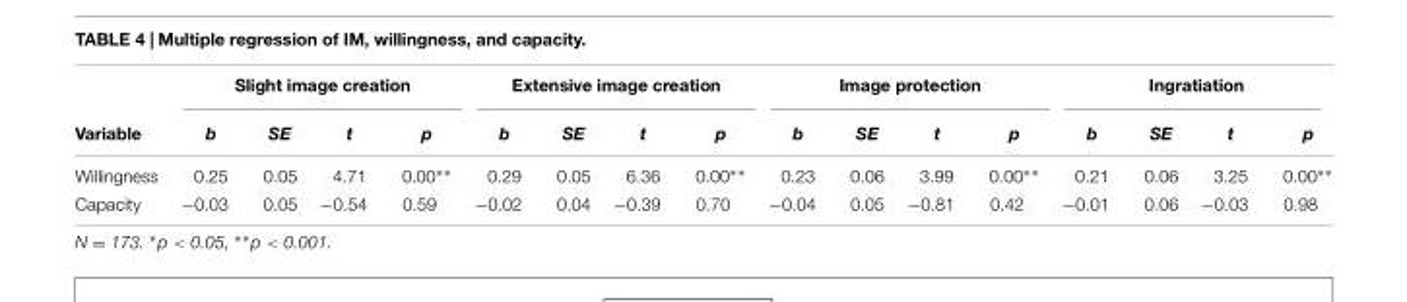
<table><thead><tr><td rowspan="2">Variable</td><td colspan="4">Slight image creation</td><td colspan="4">Extensive image creation</td><td colspan="4">Image protection</td><td colspan="4">Ingratiation</td></tr><tr><td>b</td><td>SE</td><td>t</td><td>p</td><td>b</td><td>SE</td><td>t</td><td>p</td><td>b</td><td>SE</td><td>t</td><td>p</td><td>b</td><td>SE</td><td>t</td><td>p</td></tr></thead><tbody><tr><td>Willingness</td><td>0.25</td><td>0.05</td><td>4.71</td><td>0.00∗∗</td><td>0.29</td><td>0.05</td><td>6.36</td><td>0.00∗∗</td><td>0.23</td><td>0.06</td><td>3.99</td><td>0.00∗∗</td><td>0.21</td><td>0.06</td><td>3.25</td><td>0.00∗∗</td></tr><tr><td>Capacity</td><td>−0.03</td><td>0.05</td><td>−0.54</td><td>0.59</td><td>−0.02</td><td>0.04</td><td>−0.39</td><td>0.70</td><td>−0.04</td><td>0.05</td><td>−0.81</td><td>0.42</td><td>−0.01</td><td>0.06</td><td>−0.03</td><td>0.98</td></tr></tbody></table>